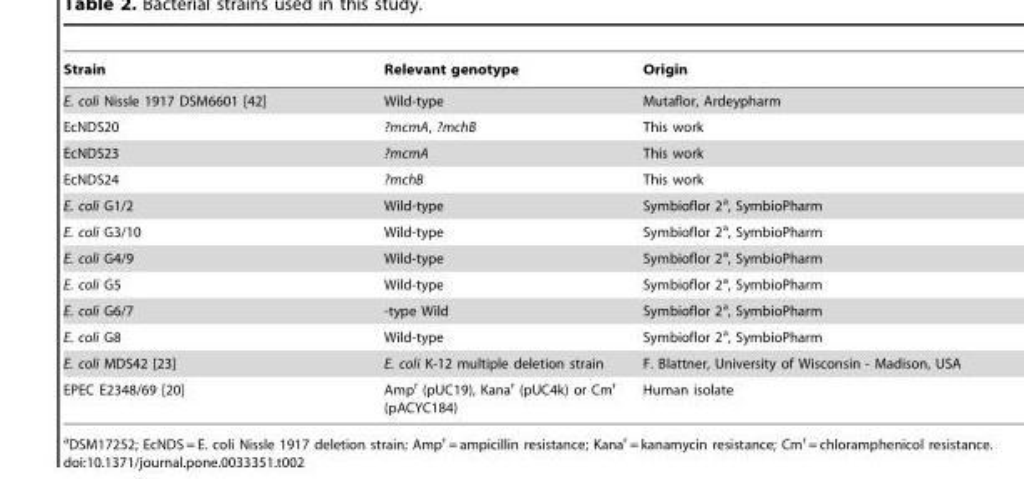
<table><thead><tr><td>Strain</td><td>Relevant genotype</td><td>Origin</td></tr></thead><tbody><tr><td>E. coli Nissle 1917 DSM6601 [42]</td><td>Wild-type</td><td>Mutaflor, Ardeypharm</td></tr><tr><td>EcNDS20</td><td>?mcmA, ?mchB</td><td>This work</td></tr><tr><td>EcNDS23</td><td>?mcmA</td><td>This work</td></tr><tr><td>EcNDS24</td><td>?mchB</td><td>This work</td></tr><tr><td>E. coli G1/2</td><td>Wild-type</td><td>Symbioflor 2<sup>a</sup>, SymbioPharm</td></tr><tr><td>E. coli G3/10</td><td>Wild-type</td><td>Symbioflor 2<sup>a</sup>, SymbioPharm</td></tr><tr><td>E. coli G4/9</td><td>Wild-type</td><td>Symbioflor 2<sup>a</sup>, SymbioPharm</td></tr><tr><td>E. coli G5</td><td>Wild-type</td><td>Symbioflor 2<sup>a</sup>, SymbioPharm</td></tr><tr><td>E. coli G6/7</td><td>-type Wild</td><td>Symbioflor 2<sup>a</sup>, SymbioPharm</td></tr><tr><td>E. coli G8</td><td>Wild-type</td><td>Symbioflor 2<sup>a</sup>, SymbioPharm</td></tr><tr><td>E. coli MDS42 [23]</td><td>E. coli K-12 multiple deletion strain</td><td>F. Blattner, University of Wisconsin - Madison, USA</td></tr><tr><td>EPEC E2348/69 [20]</td><td>Amp<sup>r</sup> (pUC19), Kana<sup>r</sup> (pUC4k) or Cm<sup>r</sup> (pACYC184)</td><td>Human isolate</td></tr></tbody></table>